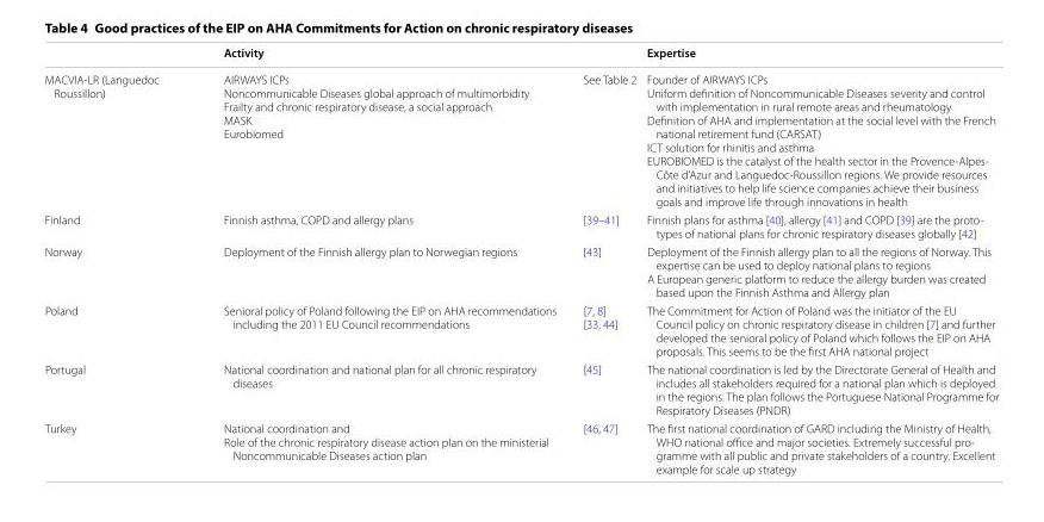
<table><thead><tr><td></td><td>Activity</td><td></td><td>Expertise</td></tr></thead><tbody><tr><td>MACVIA‑LR (Languedoc Roussillon)</td><td>AIRWAYS ICPs Noncommunicable Diseases global approach of multimorbidity Frailty and chronic respiratory disease, a social approach MASK Eurobiomed</td><td>See Table 2</td><td>Founder of AIRWAYS ICPs Uniform definition of Noncommunicable Diseases severity and control with implementation in rural remote areas and rheumatology Definition of AHA and implementation at the social level with the French national retirement fund (CARSAT) ICT solution for rhinitis and asthma EUROBIOMED is the catalyst of the health sector in the Provence‑Alpes‑ Côte d’Azur and Languedoc‑Roussillon regions. We provide resources and initiatives to help life science companies achieve their business goals and improve life through innovations in health</td></tr><tr><td>Finland</td><td>Finnish asthma, COPD and allergy plans</td><td>[39–41]</td><td>Finnish plans for asthma [40], allergy [41] and COPD [39] are the proto‑ types of national plans for chronic respiratory diseases globally [42]</td></tr><tr><td>Norway</td><td>Deployment of the Finnish allergy plan to Norwegian regions</td><td>[43]</td><td>Deployment of the Finnish allergy plan to all the regions of Norway. This expertise can be used to deploy national plans to regions A European generic platform to reduce the allergy burden was created based upon the Finnish Asthma and Allergy plan</td></tr><tr><td>Poland</td><td>Senioral policy of Poland following the EIP on AHA recommendations including the 2011 EU Council recommendations</td><td>[7, 8] [33, 44]</td><td>The Commitment for Action of Poland was the initiator of the EU Council policy on chronic respiratory disease in children [7] and further developed the senioral policy of Poland which follows the EIP on AHA proposals. This seems to be the first AHA national project</td></tr><tr><td>Portugal</td><td>National coordination and national plan for all chronic respiratory diseases</td><td>[45]</td><td>The national coordination is led by the Directorate General of Health and includes all stakeholders required for a national plan which is deployed in the regions. The plan follows the Portuguese National Programme for Respiratory Diseases (PNDR)</td></tr><tr><td>Turkey</td><td>National coordination and Role of the chronic respiratory disease action plan on the ministerial Noncommunicable Diseases action plan</td><td>[46, 47]</td><td>The first national coordination of GARD including the Ministry of Health, WHO national office and major societies. Extremely successful pro‑ gramme with all public and private stakeholders of a country. Excellent example for scale up strategy</td></tr></tbody></table>